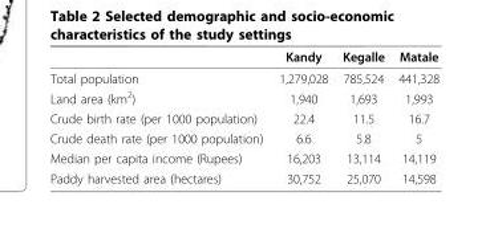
<table><thead><tr><td></td><td>Kandy</td><td>Kegalle</td><td>Matale</td></tr></thead><tbody><tr><td>Total population</td><td>1,279,028</td><td>785,524</td><td>441,328</td></tr><tr><td>Land area (km<sup>2</sup>)</td><td>1,940</td><td>1,693</td><td>1,993</td></tr><tr><td>Crude birth rate (per 1000 population)</td><td>22.4</td><td>11.5</td><td>16.7</td></tr><tr><td>Crude death rate (per 1000 population)</td><td>6.6</td><td>5.8</td><td>5</td></tr><tr><td>Median per capita income (Rupees)</td><td>16,203</td><td>13,114</td><td>14,119</td></tr><tr><td>Paddy harvested area (hectares)</td><td>30,752</td><td>25,070</td><td>14,598</td></tr></tbody></table>